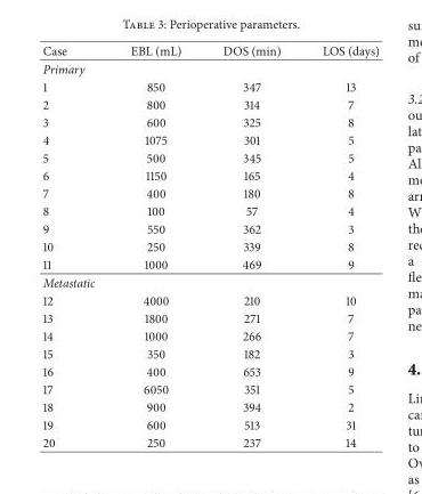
<table><thead><tr><td>Case</td><td>EBL (mL)</td><td>DOS (min)</td><td>LOS (days)</td></tr></thead><tbody><tr><td colspan="4">Primary</td></tr><tr><td>1</td><td>850</td><td>347</td><td>13</td></tr><tr><td>2</td><td>800</td><td>314</td><td>7</td></tr><tr><td>3</td><td>600</td><td>325</td><td>8</td></tr><tr><td>4</td><td>1075</td><td>301</td><td>5</td></tr><tr><td>5</td><td>500</td><td>345</td><td>5</td></tr><tr><td>6</td><td>1150</td><td>165</td><td>4</td></tr><tr><td>7</td><td>400</td><td>180</td><td>8</td></tr><tr><td>8</td><td>100</td><td>57</td><td>4</td></tr><tr><td>9</td><td>550</td><td>362</td><td>3</td></tr><tr><td>10</td><td>250</td><td>339</td><td>8</td></tr><tr><td>11</td><td>1000</td><td>469</td><td>9</td></tr><tr><td colspan="4">Metastatic</td></tr><tr><td>12</td><td>4000</td><td>210</td><td>10</td></tr><tr><td>13</td><td>1800</td><td>271</td><td>7</td></tr><tr><td>14</td><td>1000</td><td>266</td><td>7</td></tr><tr><td>15</td><td>350</td><td>182</td><td>3</td></tr><tr><td>16</td><td>400</td><td>653</td><td>9</td></tr><tr><td>17</td><td>6050</td><td>351</td><td>5</td></tr><tr><td>18</td><td>900</td><td>394</td><td>2</td></tr><tr><td>19</td><td>600</td><td>513</td><td>31</td></tr><tr><td>20</td><td>250</td><td>237</td><td>14</td></tr></tbody></table>